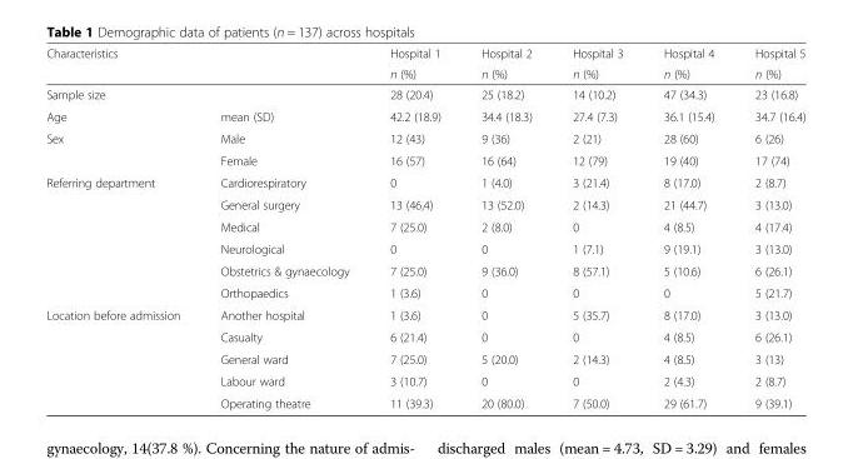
<table><thead><tr><td rowspan="2">Characteristics</td><td rowspan="2"></td><td rowspan="2">Hospital 1 n (%)</td><td rowspan="2">Hospital 2 n (%)</td><td rowspan="2">Hospital 3 n (%)</td><td rowspan="2">Hospital 4 n (%)</td><td rowspan="2">Hospital 5 n (%)</td></tr><tr></tr></thead><tbody><tr><td>Sample size</td><td></td><td>28 (20.4)</td><td>25 (18.2)</td><td>14 (10.2)</td><td>47 (34.3)</td><td>23 (16.8)</td></tr><tr><td>Age</td><td>mean (SD)</td><td>42.2 (18.9)</td><td>34.4 (18.3)</td><td>27.4 (7.3)</td><td>36.1 (15.4)</td><td>34.7 (16.4)</td></tr><tr><td rowspan="2">Sex</td><td>Male</td><td>12 (43)</td><td>9 (36)</td><td>2 (21)</td><td>28 (60)</td><td>6 (26)</td></tr><tr><td>Female</td><td>16 (57)</td><td>16 (64)</td><td>12 (79)</td><td>19 (40)</td><td>17 (74)</td></tr><tr><td rowspan="6">Referring department</td><td>Cardiorespiratory</td><td>0</td><td>1 (4.0)</td><td>3 (21.4)</td><td>8 (17.0)</td><td>2 (8.7)</td></tr><tr><td>General surgery</td><td>13 (46,4)</td><td>13 (52.0)</td><td>2 (14.3)</td><td>21 (44.7)</td><td>3 (13.0)</td></tr><tr><td>Medical</td><td>7 (25.0)</td><td>2 (8.0)</td><td>0</td><td>4 (8.5)</td><td>4 (17.4)</td></tr><tr><td>Neurological</td><td>0</td><td>0</td><td>1 (7.1)</td><td>9 (19.1)</td><td>3 (13.0)</td></tr><tr><td>Obstetrics &amp; gynaecology</td><td>7 (25.0)</td><td>9 (36.0)</td><td>8 (57.1)</td><td>5 (10.6)</td><td>6 (26.1)</td></tr><tr><td>Orthopaedics</td><td>1 (3.6)</td><td>0</td><td>0</td><td>0</td><td>5 (21.7)</td></tr><tr><td rowspan="5">Location before admission</td><td>Another hospital</td><td>1 (3.6)</td><td>0</td><td>5 (35.7)</td><td>8 (17.0)</td><td>3 (13.0)</td></tr><tr><td>Casualty</td><td>6 (21.4)</td><td>0</td><td>0</td><td>4 (8.5)</td><td>6 (26.1)</td></tr><tr><td>General ward</td><td>7 (25.0)</td><td>5 (20.0)</td><td>2 (14.3)</td><td>4 (8.5)</td><td>3 (13)</td></tr><tr><td>Labour ward</td><td>3 (10.7)</td><td>0</td><td>0</td><td>2 (4.3)</td><td>2 (8.7)</td></tr><tr><td>Operating theatre</td><td>11 (39.3)</td><td>20 (80.0)</td><td>7 (50.0)</td><td>29 (61.7)</td><td>9 (39.1)</td></tr></tbody></table>